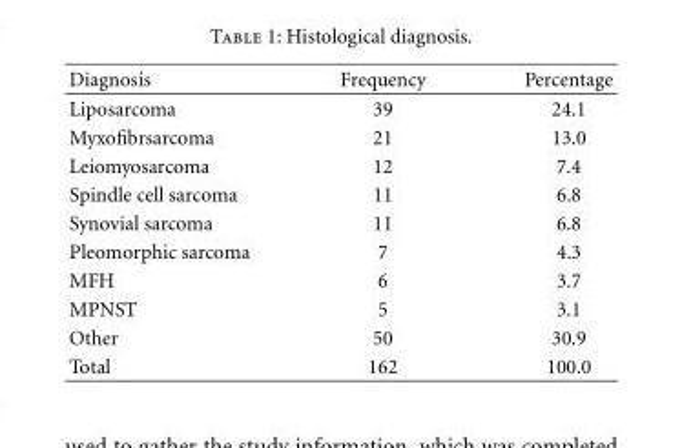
<table><thead><tr><td>Diagnosis</td><td>Frequency</td><td>Percentage</td></tr></thead><tbody><tr><td>Liposarcoma</td><td>39</td><td>24.1</td></tr><tr><td>Myxofibrsarcoma</td><td>21</td><td>13.0</td></tr><tr><td>Leiomyosarcoma</td><td>12</td><td>7.4</td></tr><tr><td>Spindle cell sarcoma</td><td>11</td><td>6.8</td></tr><tr><td>Synovial sarcoma</td><td>11</td><td>6.8</td></tr><tr><td>Pleomorphic sarcoma</td><td>7</td><td>4.3</td></tr><tr><td>MFH</td><td>6</td><td>3.7</td></tr><tr><td>MPNST</td><td>5</td><td>3.1</td></tr><tr><td>Other</td><td>50</td><td>30.9</td></tr><tr><td>Total</td><td>162</td><td>100.0</td></tr></tbody></table>